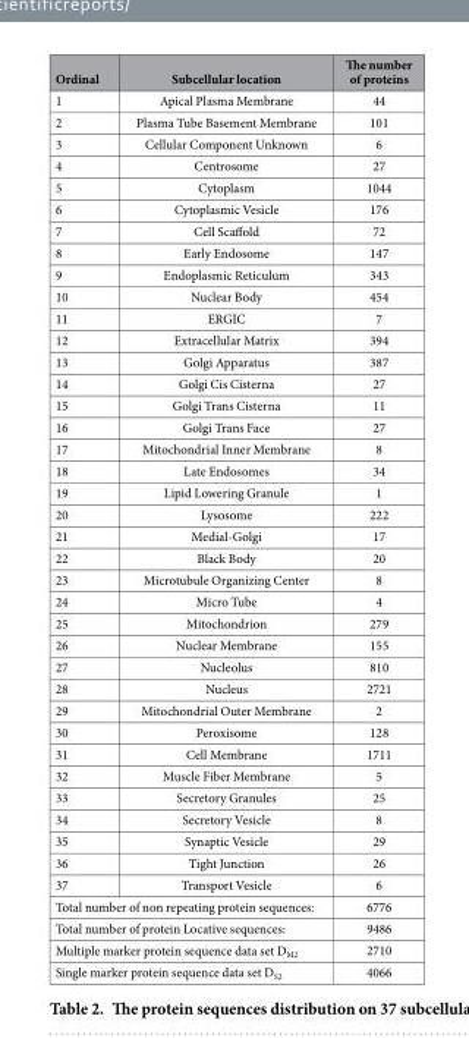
<table><thead><tr><td>Ordinal</td><td>Subcellular location</td><td>The number of proteins</td></tr></thead><tbody><tr><td>1</td><td>Apical Plasma Membrane</td><td>44</td></tr><tr><td>2</td><td>Plasma Tube Basement Membrane</td><td>101</td></tr><tr><td>3</td><td>Cellular Component Unknown</td><td>6</td></tr><tr><td>4</td><td>Centrosome</td><td>27</td></tr><tr><td>5</td><td>Cytoplasm</td><td>1044</td></tr><tr><td>6</td><td>Cytoplasmic Vesicle</td><td>176</td></tr><tr><td>7</td><td>Cell Scaffold</td><td>72</td></tr><tr><td>8</td><td>Early Endosome</td><td>147</td></tr><tr><td>9</td><td>Endoplasmic Reticulum</td><td>343</td></tr><tr><td>10</td><td>Nuclear Body</td><td>454</td></tr><tr><td>11</td><td>ERGIC</td><td>7</td></tr><tr><td>12</td><td>Extracellular Matrix</td><td>394</td></tr><tr><td>13</td><td>Golgi Apparatus</td><td>387</td></tr><tr><td>14</td><td>Golgi Cis Cisterna</td><td>27</td></tr><tr><td>15</td><td>Golgi Trans Cisterna</td><td>11</td></tr><tr><td>16</td><td>Golgi Trans Face</td><td>27</td></tr><tr><td>17</td><td>Mitochondrial Inner Membrane</td><td>8</td></tr><tr><td>18</td><td>Late Endosomes</td><td>34</td></tr><tr><td>19</td><td>Lipid Lowering Granule</td><td>1</td></tr><tr><td>20</td><td>Lysosome</td><td>222</td></tr><tr><td>21</td><td>Medial-Golgi</td><td>17</td></tr><tr><td>22</td><td>Black Body</td><td>20</td></tr><tr><td>23</td><td>Microtubule Organizing Center</td><td>8</td></tr><tr><td>24</td><td>Micro Tube</td><td>4</td></tr><tr><td>25</td><td>Mitochondrion</td><td>279</td></tr><tr><td>26</td><td>Nuclear Membrane</td><td>155</td></tr><tr><td>27</td><td>Nucleolus</td><td>810</td></tr><tr><td>28</td><td>Nucleus</td><td>2721</td></tr><tr><td>29</td><td>Mitochondrial Outer Membrane</td><td>2</td></tr><tr><td>30</td><td>Peroxisome</td><td>128</td></tr><tr><td>31</td><td>Cell Membrane</td><td>1711</td></tr><tr><td>32</td><td>Muscle Fiber Membrane</td><td>5</td></tr><tr><td>33</td><td>Secretory Granules</td><td>25</td></tr><tr><td>34</td><td>Secretory Vesicle</td><td>8</td></tr><tr><td>35</td><td>Synaptic Vesicle</td><td>29</td></tr><tr><td>36</td><td>Tight Junction</td><td>26</td></tr><tr><td>37</td><td>Transport Vesicle</td><td>6</td></tr><tr><td colspan="2">Total number of non repeating protein sequences:</td><td>6776</td></tr><tr><td colspan="2">Total number of protein Locative sequences:</td><td>9486</td></tr><tr><td colspan="2">Multiple marker protein sequence data set D<sub>M2</sub></td><td>2710</td></tr><tr><td colspan="2">Single marker protein sequence data set D<sub>S2</sub></td><td>4066</td></tr></tbody></table>